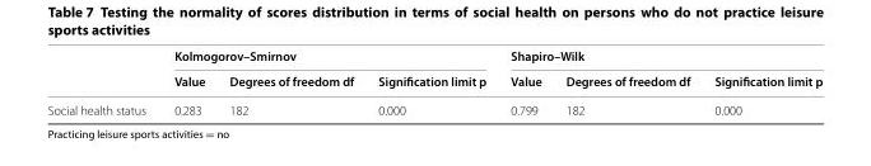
<table><thead><tr><td rowspan="2"></td><td colspan="3">Kolmogorov–Smirnov</td><td colspan="3">Shapiro–Wilk</td></tr><tr><td>Value</td><td>Degrees of freedom df</td><td>Signification limit p</td><td>Value</td><td>Degrees of freedom df</td><td>Signification limit p</td></tr></thead><tbody><tr><td>Social health status</td><td>0.283</td><td>182</td><td>0.000</td><td>0.799</td><td>182</td><td>0.000</td></tr></tbody></table>